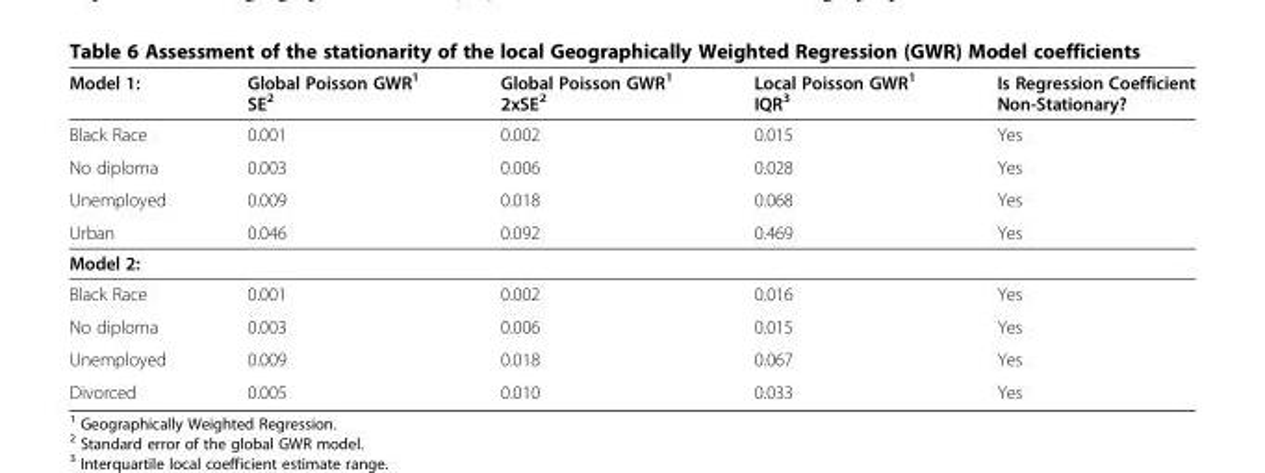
<table><thead><tr><td>Model 1:</td><td>Global Poisson GWR<sup>1</sup> SE<sup>2</sup></td><td>Global Poisson GWR<sup>1</sup> 2xSE<sup>2</sup></td><td>Local Poisson GWR<sup>1</sup> IQR<sup>3</sup></td><td>Is Regression Coefficient Non-Stationary?</td></tr></thead><tbody><tr><td>Black Race</td><td>0.001</td><td>0.002</td><td>0.015</td><td>Yes</td></tr><tr><td>No diploma</td><td>0.003</td><td>0.006</td><td>0.028</td><td>Yes</td></tr><tr><td>Unemployed</td><td>0.009</td><td>0.018</td><td>0.068</td><td>Yes</td></tr><tr><td>Urban</td><td>0.046</td><td>0.092</td><td>0.469</td><td>Yes</td></tr><tr><td colspan="5">Model 2:</td></tr><tr><td>Black Race</td><td>0.001</td><td>0.002</td><td>0.016</td><td>Yes</td></tr><tr><td>No diploma</td><td>0.003</td><td>0.006</td><td>0.015</td><td>Yes</td></tr><tr><td>Unemployed</td><td>0.009</td><td>0.018</td><td>0.067</td><td>Yes</td></tr><tr><td>Divorced</td><td>0.005</td><td>0.010</td><td>0.033</td><td>Yes</td></tr></tbody></table>